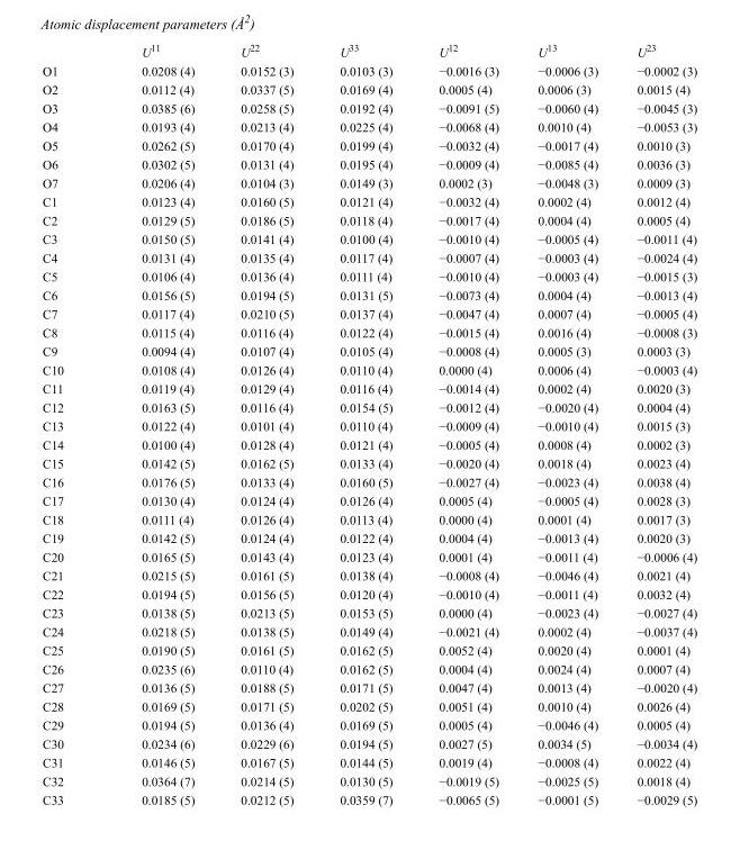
<table><thead><tr><td></td><td>U<sup>11</sup></td><td>U<sup>22</sup></td><td>U<sup>33</sup></td><td>U<sup>12</sup></td><td>U<sup>13</sup></td><td>U<sup>23</sup></td></tr></thead><tbody><tr><td>O1</td><td>0.0208 (4)</td><td>0.0152 (3)</td><td>0.0103 (3)</td><td>−0.0016 (3)</td><td>−0.0006 (3)</td><td>−0.0002 (3)</td></tr><tr><td>O2</td><td>0.0112 (4)</td><td>0.0337 (5)</td><td>0.0169 (4)</td><td>0.0005 (4)</td><td>0.0006 (3)</td><td>0.0015 (4)</td></tr><tr><td>O3</td><td>0.0385 (6)</td><td>0.0258 (5)</td><td>0.0192 (4)</td><td>−0.0091 (5)</td><td>−0.0060 (4)</td><td>−0.0045 (3)</td></tr><tr><td>O4</td><td>0.0193 (4)</td><td>0.0213 (4)</td><td>0.0225 (4)</td><td>−0.0068 (4)</td><td>0.0010 (4)</td><td>−0.0053 (3)</td></tr><tr><td>O5</td><td>0.0262 (5)</td><td>0.0170 (4)</td><td>0.0199 (4)</td><td>−0.0032 (4)</td><td>−0.0017 (4)</td><td>0.0010 (3)</td></tr><tr><td>O6</td><td>0.0302 (5)</td><td>0.0131 (4)</td><td>0.0195 (4)</td><td>−0.0009 (4)</td><td>−0.0085 (4)</td><td>0.0036 (3)</td></tr><tr><td>O7</td><td>0.0206 (4)</td><td>0.0104 (3)</td><td>0.0149 (3)</td><td>0.0002 (3)</td><td>−0.0048 (3)</td><td>0.0009 (3)</td></tr><tr><td>C1</td><td>0.0123 (4)</td><td>0.0160 (5)</td><td>0.0121 (4)</td><td>−0.0032 (4)</td><td>0.0002 (4)</td><td>0.0012 (4)</td></tr><tr><td>C2</td><td>0.0129 (5)</td><td>0.0186 (5)</td><td>0.0118 (4)</td><td>−0.0017 (4)</td><td>0.0004 (4)</td><td>0.0005 (4)</td></tr><tr><td>C3</td><td>0.0150 (5)</td><td>0.0141 (4)</td><td>0.0100 (4)</td><td>−0.0010 (4)</td><td>−0.0005 (4)</td><td>−0.0011 (4)</td></tr><tr><td>C4</td><td>0.0131 (4)</td><td>0.0135 (4)</td><td>0.0117 (4)</td><td>−0.0007 (4)</td><td>−0.0003 (4)</td><td>−0.0024 (4)</td></tr><tr><td>C5</td><td>0.0106 (4)</td><td>0.0136 (4)</td><td>0.0111 (4)</td><td>−0.0010 (4)</td><td>−0.0003 (4)</td><td>−0.0015 (3)</td></tr><tr><td>C6</td><td>0.0156 (5)</td><td>0.0194 (5)</td><td>0.0131 (5)</td><td>−0.0073 (4)</td><td>0.0004 (4)</td><td>−0.0013 (4)</td></tr><tr><td>C7</td><td>0.0117 (4)</td><td>0.0210 (5)</td><td>0.0137 (4)</td><td>−0.0047 (4)</td><td>0.0007 (4)</td><td>−0.0005 (4)</td></tr><tr><td>C8</td><td>0.0115 (4)</td><td>0.0116 (4)</td><td>0.0122 (4)</td><td>−0.0015 (4)</td><td>0.0016 (4)</td><td>−0.0008 (3)</td></tr><tr><td>C9</td><td>0.0094 (4)</td><td>0.0107 (4)</td><td>0.0105 (4)</td><td>−0.0008 (4)</td><td>0.0005 (3)</td><td>0.0003 (3)</td></tr><tr><td>C10</td><td>0.0108 (4)</td><td>0.0126 (4)</td><td>0.0110 (4)</td><td>0.0000 (4)</td><td>0.0006 (4)</td><td>−0.0003 (4)</td></tr><tr><td>C11</td><td>0.0119 (4)</td><td>0.0129 (4)</td><td>0.0116 (4)</td><td>−0.0014 (4)</td><td>0.0002 (4)</td><td>0.0020 (3)</td></tr><tr><td>C12</td><td>0.0163 (5)</td><td>0.0116 (4)</td><td>0.0154 (5)</td><td>−0.0012 (4)</td><td>−0.0020 (4)</td><td>0.0004 (4)</td></tr><tr><td>C13</td><td>0.0122 (4)</td><td>0.0101 (4)</td><td>0.0110 (4)</td><td>−0.0009 (4)</td><td>−0.0010 (4)</td><td>0.0015 (3)</td></tr><tr><td>C14</td><td>0.0100 (4)</td><td>0.0128 (4)</td><td>0.0121 (4)</td><td>−0.0005 (4)</td><td>0.0008 (4)</td><td>0.0002 (3)</td></tr><tr><td>C15</td><td>0.0142 (5)</td><td>0.0162 (5)</td><td>0.0133 (4)</td><td>−0.0020 (4)</td><td>0.0018 (4)</td><td>0.0023 (4)</td></tr><tr><td>C16</td><td>0.0176 (5)</td><td>0.0133 (4)</td><td>0.0160 (5)</td><td>−0.0027 (4)</td><td>−0.0023 (4)</td><td>0.0038 (4)</td></tr><tr><td>C17</td><td>0.0130 (4)</td><td>0.0124 (4)</td><td>0.0126 (4)</td><td>0.0005 (4)</td><td>−0.0005 (4)</td><td>0.0028 (3)</td></tr><tr><td>C18</td><td>0.0111 (4)</td><td>0.0126 (4)</td><td>0.0113 (4)</td><td>0.0000 (4)</td><td>0.0001 (4)</td><td>0.0017 (3)</td></tr><tr><td>C19</td><td>0.0142 (5)</td><td>0.0124 (4)</td><td>0.0122 (4)</td><td>0.0004 (4)</td><td>−0.0013 (4)</td><td>0.0020 (3)</td></tr><tr><td>C20</td><td>0.0165 (5)</td><td>0.0143 (4)</td><td>0.0123 (4)</td><td>0.0001 (4)</td><td>−0.0011 (4)</td><td>−0.0006 (4)</td></tr><tr><td>C21</td><td>0.0215 (5)</td><td>0.0161 (5)</td><td>0.0138 (4)</td><td>−0.0008 (4)</td><td>−0.0046 (4)</td><td>0.0021 (4)</td></tr><tr><td>C22</td><td>0.0194 (5)</td><td>0.0156 (5)</td><td>0.0120 (4)</td><td>−0.0010 (4)</td><td>−0.0011 (4)</td><td>0.0032 (4)</td></tr><tr><td>C23</td><td>0.0138 (5)</td><td>0.0213 (5)</td><td>0.0153 (5)</td><td>0.0000 (4)</td><td>−0.0023 (4)</td><td>−0.0027 (4)</td></tr><tr><td>C24</td><td>0.0218 (5)</td><td>0.0138 (5)</td><td>0.0149 (4)</td><td>−0.0021 (4)</td><td>0.0002 (4)</td><td>−0.0037 (4)</td></tr><tr><td>C25</td><td>0.0190 (5)</td><td>0.0161 (5)</td><td>0.0162 (5)</td><td>0.0052 (4)</td><td>0.0020 (4)</td><td>0.0001 (4)</td></tr><tr><td>C26</td><td>0.0235 (6)</td><td>0.0110 (4)</td><td>0.0162 (5)</td><td>0.0004 (4)</td><td>0.0024 (4)</td><td>0.0007 (4)</td></tr><tr><td>C27</td><td>0.0136 (5)</td><td>0.0188 (5)</td><td>0.0171 (5)</td><td>0.0047 (4)</td><td>0.0013 (4)</td><td>−0.0020 (4)</td></tr><tr><td>C28</td><td>0.0169 (5)</td><td>0.0171 (5)</td><td>0.0202 (5)</td><td>0.0051 (4)</td><td>0.0010 (4)</td><td>0.0026 (4)</td></tr><tr><td>C29</td><td>0.0194 (5)</td><td>0.0136 (4)</td><td>0.0169 (5)</td><td>0.0005 (4)</td><td>−0.0046 (4)</td><td>0.0005 (4)</td></tr><tr><td>C30</td><td>0.0234 (6)</td><td>0.0229 (6)</td><td>0.0194 (5)</td><td>0.0027 (5)</td><td>0.0034 (5)</td><td>−0.0034 (4)</td></tr><tr><td>C31</td><td>0.0146 (5)</td><td>0.0167 (5)</td><td>0.0144 (5)</td><td>0.0019 (4)</td><td>−0.0008 (4)</td><td>0.0022 (4)</td></tr><tr><td>C32</td><td>0.0364 (7)</td><td>0.0214 (5)</td><td>0.0130 (5)</td><td>−0.0019 (5)</td><td>−0.0025 (5)</td><td>0.0018 (4)</td></tr><tr><td>C33</td><td>0.0185 (5)</td><td>0.0212 (5)</td><td>0.0359 (7)</td><td>−0.0065 (5)</td><td>−0.0001 (5)</td><td>−0.0029 (5)</td></tr></tbody></table>